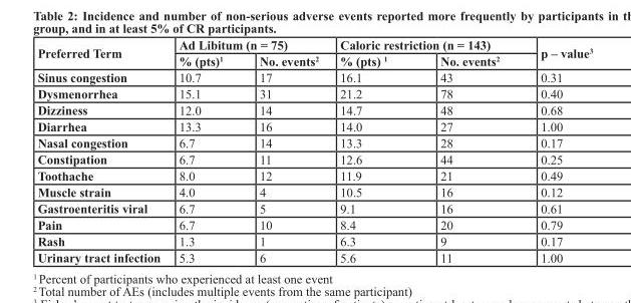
<table><thead><tr><td rowspan="2">Preferred Term</td><td colspan="2">Ad Libitum (n = 75)</td><td colspan="2">Caloric restriction (n = 143)</td><td rowspan="2">p – value<sup>3</sup></td></tr><tr><td>% (pts)<sup>1</sup></td><td>No. events<sup>2</sup></td><td>% (pts) <sup>1</sup></td><td>No. events<sup>2</sup></td></tr></thead><tbody><tr><td>Sinus congestion</td><td>10.7</td><td>17</td><td>16.1</td><td>43</td><td>0.31</td></tr><tr><td>Dysmenorrhea</td><td>15.1</td><td>31</td><td>21.2</td><td>78</td><td>0.40</td></tr><tr><td>Dizziness</td><td>12.0</td><td>14</td><td>14.7</td><td>48</td><td>0.68</td></tr><tr><td>Diarrhea</td><td>13.3</td><td>16</td><td>14.0</td><td>27</td><td>1.00</td></tr><tr><td>Nasal congestion</td><td>6.7</td><td>14</td><td>13.3</td><td>28</td><td>0.17</td></tr><tr><td>Constipation</td><td>6.7</td><td>11</td><td>12.6</td><td>44</td><td>0.25</td></tr><tr><td>Toothache</td><td>8.0</td><td>12</td><td>11.9</td><td>21</td><td>0.49</td></tr><tr><td>Muscle strain</td><td>4.0</td><td>4</td><td>10.5</td><td>16</td><td>0.12</td></tr><tr><td>Gastroenteritis viral</td><td>6.7</td><td>5</td><td>9.1</td><td>16</td><td>0.61</td></tr><tr><td>Pain</td><td>6.7</td><td>10</td><td>8.4</td><td>20</td><td>0.79</td></tr><tr><td>Rash</td><td>1.3</td><td>1</td><td>6.3</td><td>9</td><td>0.17</td></tr><tr><td>Urinary tract infection</td><td>5.3</td><td>6</td><td>5.6</td><td>11</td><td>1.00</td></tr></tbody></table>